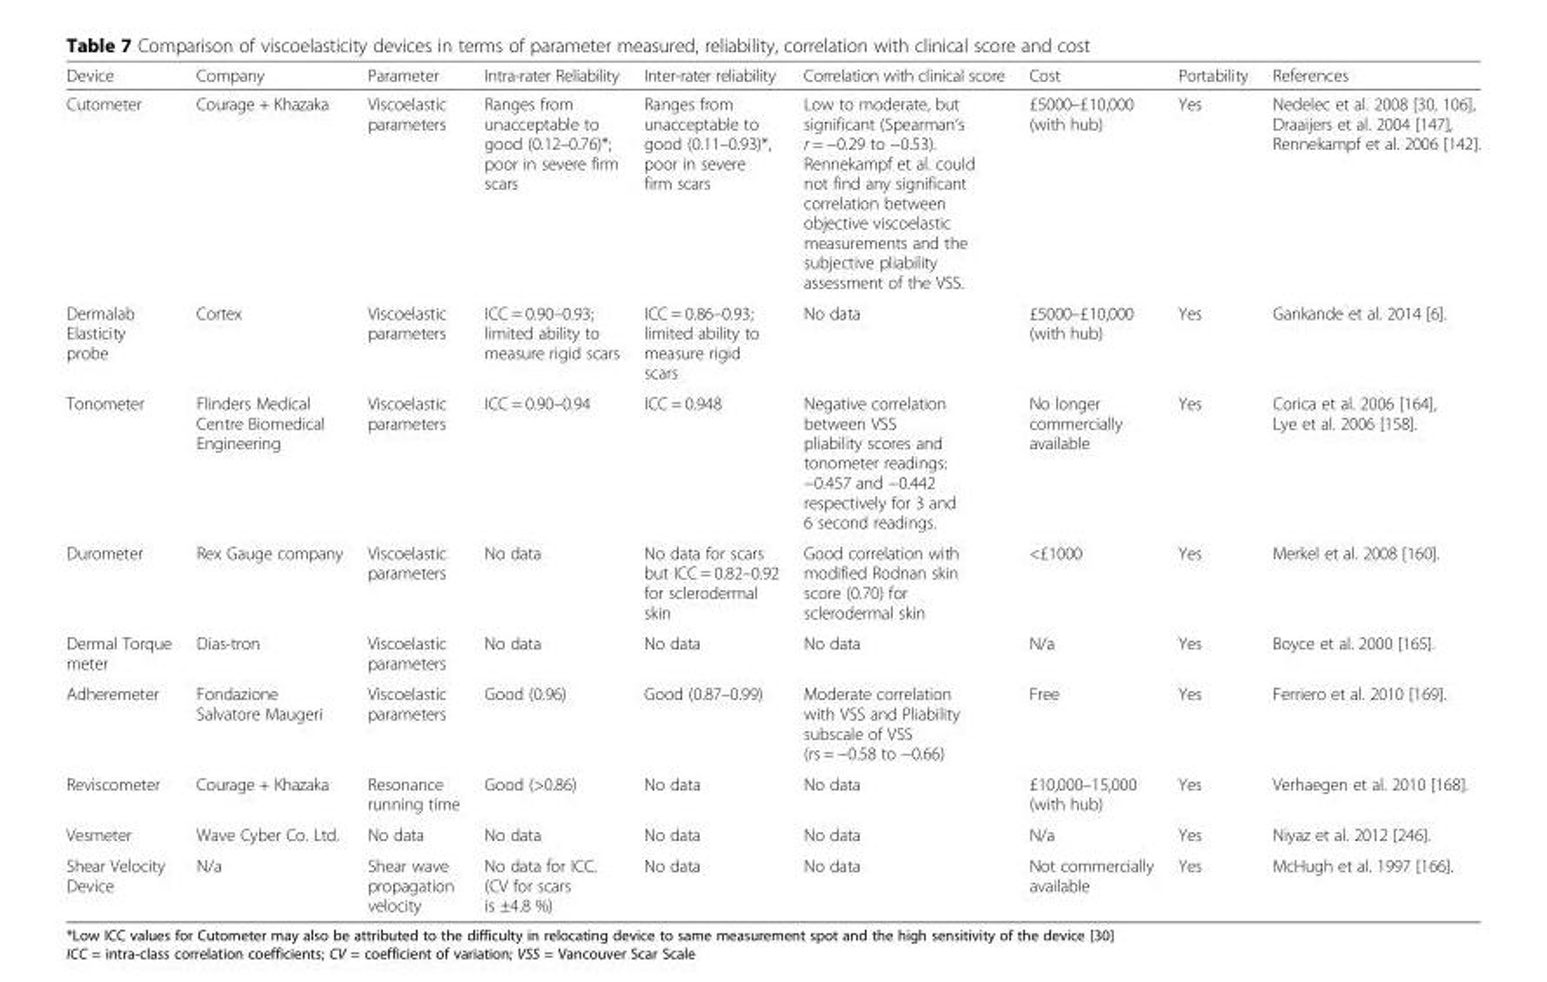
<table><thead><tr><td>Device</td><td>Company</td><td>Parameter</td><td>Intra-rater Reliability</td><td>Inter-rater reliability</td><td>Correlation with clinical score</td><td>Cost</td><td>Portability</td><td>References</td></tr></thead><tbody><tr><td>Cutometer</td><td>Courage + Khazaka</td><td>Viscoelastic parameters</td><td>Ranges from unacceptable to good (0.12–0.76)*; poor in severe firm scars</td><td>Ranges from unacceptable to good (0.11–0.93)*, poor in severe firm scars</td><td>Low to moderate, but significant (Spearman’s r = −0.29 to −0.53). Rennekampf et al. could not find any significant correlation between objective viscoelastic measurements and the subjective pliability assessment of the VSS.</td><td>£5000–£10,000 (with hub)</td><td>Yes</td><td>Nedelec et al. 2008 [30, 106], Draaijers et al. 2004 [147], Rennekampf et al. 2006 [142].</td></tr><tr><td>Dermalab Elasticity probe</td><td>Cortex</td><td>Viscoelastic parameters</td><td>ICC = 0.90–0.93; limited ability to measure rigid scars</td><td>ICC = 0.86–0.93; limited ability to measure rigid scars</td><td>No data</td><td>£5000–£10,000 (with hub)</td><td>Yes</td><td>Gankande et al. 2014 [6].</td></tr><tr><td>Tonometer</td><td>Flinders Medical Centre Biomedical Engineering</td><td>Viscoelastic parameters</td><td>ICC = 0.90–0.94</td><td>ICC = 0.948</td><td>Negative correlation between VSS pliability scores and tonometer readings: −0.457 and −0.442 respectively for 3 and 6 second readings.</td><td>No longer commercially available</td><td>Yes</td><td>Corica et al. 2006 [164], Lye et al. 2006 [158].</td></tr><tr><td>Durometer</td><td>Rex Gauge company</td><td>Viscoelastic parameters</td><td>No data</td><td>No data for scars but ICC = 0.82–0.92 for sclerodermal skin</td><td>Good correlation with modified Rodnan skin score (0.70) for sclerodermal skin</td><td>&lt;£1000</td><td>Yes</td><td>Merkel et al. 2008 [160].</td></tr><tr><td>Dermal Torque meter</td><td>Dias-tron</td><td>Viscoelastic parameters</td><td>No data</td><td>No data</td><td>No data</td><td>N/a</td><td>Yes</td><td>Boyce et al. 2000 [165].</td></tr><tr><td>Adheremeter</td><td>Fondazione Salvatore Maugeri</td><td>Viscoelastic parameters</td><td>Good (0.96)</td><td>Good (0.87–0.99)</td><td>Moderate correlation with VSS and Pliability subscale of VSS (rs = −0.58 to −0.66)</td><td>Free</td><td>Yes</td><td>Ferriero et al. 2010 [169].</td></tr><tr><td>Reviscometer</td><td>Courage + Khazaka</td><td>Resonance running time</td><td>Good (&gt;0.86)</td><td>No data</td><td>No data</td><td>£10,000–15,000 (with hub)</td><td>Yes</td><td>Verhaegen et al. 2010 [168].</td></tr><tr><td>Vesmeter</td><td>Wave Cyber Co. Ltd.</td><td>No data</td><td>No data</td><td>No data</td><td>No data</td><td>N/a</td><td>Yes</td><td>Niyaz et al. 2012 [246].</td></tr><tr><td>Shear Velocity Device</td><td>N/a</td><td>Shear wave propagation velocity</td><td>No data for ICC. (CV for scars is ±4.8 %)</td><td>No data</td><td>No data</td><td>Not commercially available</td><td>Yes</td><td>McHugh et al. 1997 [166].</td></tr></tbody></table>